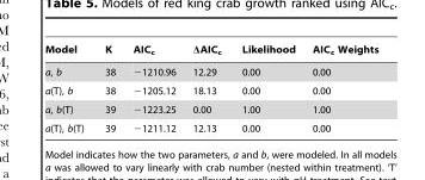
<table><thead><tr><td>Model</td><td>K</td><td>AIC<sub>c</sub></td><td>ΔAIC<sub>c</sub></td><td>Likelihood</td><td>AIC<sub>c</sub> Weights</td></tr></thead><tbody><tr><td>a, b</td><td>38</td><td>−1210.96</td><td>12.29</td><td>0.00</td><td>0.00</td></tr><tr><td>a(T), b</td><td>38</td><td>−1205.12</td><td>18.13</td><td>0.00</td><td>0.00</td></tr><tr><td>a, b(T)</td><td>39</td><td>−1223.25</td><td>0.00</td><td>1.00</td><td>1.00</td></tr><tr><td>a(T), b(T)</td><td>39</td><td>−1211.12</td><td>12.13</td><td>0.00</td><td>0.00</td></tr></tbody></table>